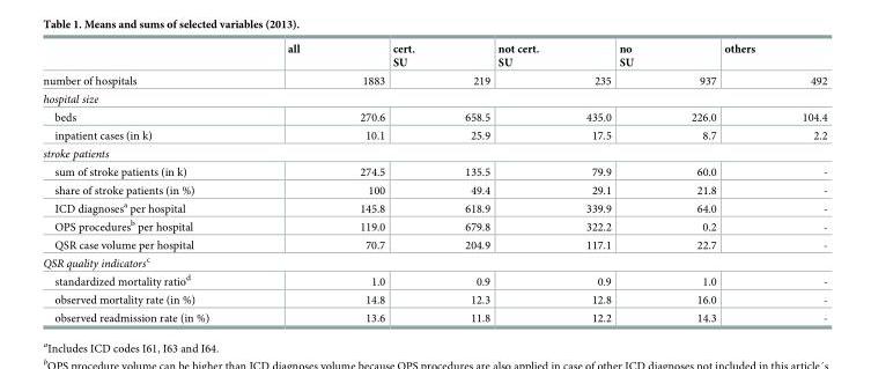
<table><thead><tr><td></td><td>all</td><td>cert. SU</td><td>not cert. SU</td><td>no SU</td><td>others</td></tr></thead><tbody><tr><td>number of hospitals</td><td>1883</td><td>219</td><td>235</td><td>937</td><td>492</td></tr><tr><td colspan="6">hospital size</td></tr><tr><td>beds</td><td>270.6</td><td>658.5</td><td>435.0</td><td>226.0</td><td>104.4</td></tr><tr><td>inpatient cases (in k)</td><td>10.1</td><td>25.9</td><td>17.5</td><td>8.7</td><td>2.2</td></tr><tr><td colspan="6">stroke patients</td></tr><tr><td>sum of stroke patients (in k)</td><td>274.5</td><td>135.5</td><td>79.9</td><td>60.0</td><td>-</td></tr><tr><td>share of stroke patients (in %)</td><td>100</td><td>49.4</td><td>29.1</td><td>21.8</td><td>-</td></tr><tr><td>ICD diagnoses<sup>a</sup> per hospital</td><td>145.8</td><td>618.9</td><td>339.9</td><td>64.0</td><td>-</td></tr><tr><td>OPS procedures<sup>b</sup> per hospital</td><td>119.0</td><td>679.8</td><td>322.2</td><td>0.2</td><td>-</td></tr><tr><td>QSR case volume per hospital</td><td>70.7</td><td>204.9</td><td>117.1</td><td>22.7</td><td>-</td></tr><tr><td colspan="6">QSR quality indicators<sup>c</sup></td></tr><tr><td>standardized mortality ratio<sup>d</sup></td><td>1.0</td><td>0.9</td><td>0.9</td><td>1.0</td><td>-</td></tr><tr><td>observed mortality rate (in %)</td><td>14.8</td><td>12.3</td><td>12.8</td><td>16.0</td><td>-</td></tr><tr><td>observed readmission rate (in %)</td><td>13.6</td><td>11.8</td><td>12.2</td><td>14.3</td><td>-</td></tr></tbody></table>